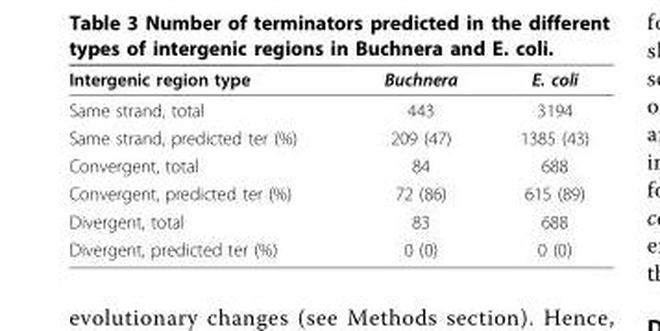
<table><thead><tr><td>Intergenic region type</td><td>Buchnera</td><td>E. coli</td></tr></thead><tbody><tr><td>Same strand, total</td><td>443</td><td>3194</td></tr><tr><td>Same strand, predicted ter (%)</td><td>209 (47)</td><td>1385 (43)</td></tr><tr><td>Convergent, total</td><td>84</td><td>688</td></tr><tr><td>Convergent, predicted ter (%)</td><td>72 (86)</td><td>615 (89)</td></tr><tr><td>Divergent, total</td><td>83</td><td>688</td></tr><tr><td>Divergent, predicted ter (%)</td><td>0 (0)</td><td>0 (0)</td></tr></tbody></table>